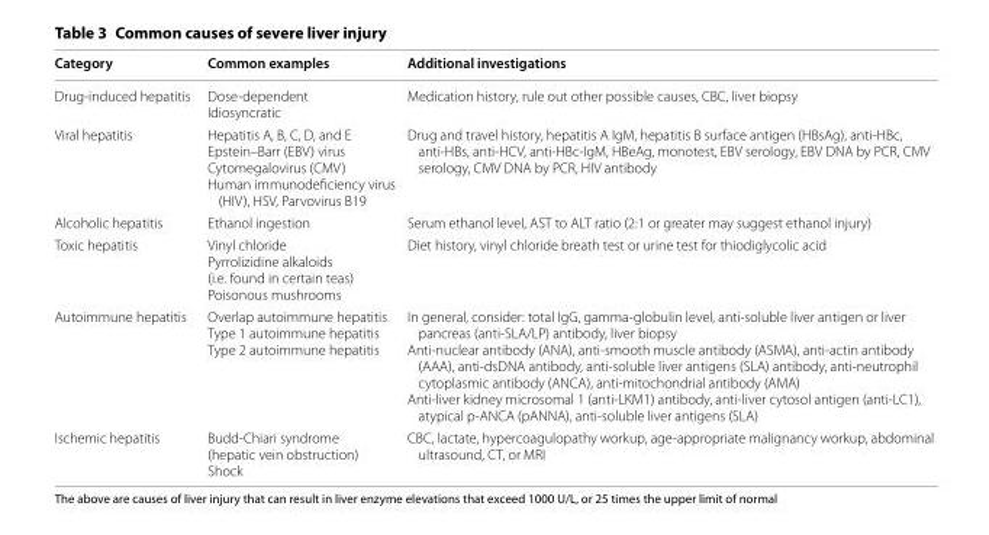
<table><thead><tr><td>Category</td><td>Common examples</td><td>Additional investigations</td></tr></thead><tbody><tr><td>Drug-induced hepatitis</td><td>Dose-dependent Idiosyncratic</td><td>Medication history, rule out other possible causes, CBC, liver biopsy</td></tr><tr><td>Viral hepatitis</td><td>Hepatitis A, B, C, D, and E Epstein–Barr (EBV) virus Cytomegalovirus (CMV) Human immunodeficiency virus (HIV), HSV, Parvovirus B19</td><td>Drug and travel history, hepatitis A IgM, hepatitis B surface antigen (HBsAg), anti-HBc, anti-HBs, anti-HCV, anti-HBc-IgM, HBeAg, monotest, EBV serology, EBV DNA by PCR, CMV serology, CMV DNA by PCR, HIV antibody</td></tr><tr><td>Alcoholic hepatitis</td><td>Ethanol ingestion</td><td>Serum ethanol level, AST to ALT ratio (2:1 or greater may suggest ethanol injury)</td></tr><tr><td>Toxic hepatitis</td><td>Vinyl chloride Pyrrolizidine alkaloids (i.e. found in certain teas) Poisonous mushrooms</td><td>Diet history, vinyl chloride breath test or urine test for thiodiglycolic acid</td></tr><tr><td>Autoimmune hepatitis</td><td>Overlap autoimmune hepatitis Type 1 autoimmune hepatitis Type 2 autoimmune hepatitis</td><td>In general, consider: total IgG, gamma-globulin level, anti-soluble liver antigen or liver pancreas (anti-SLA/LP) antibody, liver biopsy Anti-nuclear antibody (ANA), anti-smooth muscle antibody (ASMA), anti-actin antibody (AAA), anti-dsDNA antibody, anti-soluble liver antigens (SLA) antibody, anti-neutrophil cytoplasmic antibody (ANCA), anti-mitochondrial antibody (AMA) Anti-liver kidney microsomal 1 (anti-LKM1) antibody, anti-liver cytosol antigen (anti-LC1), atypical p-ANCA (pANNA), anti-soluble liver antigens (SLA)</td></tr><tr><td>Ischemic hepatitis</td><td>Budd-Chiari syndrome (hepatic vein obstruction) Shock</td><td>CBC, lactate, hypercoagulopathy workup, age-appropriate malignancy workup, abdominal ultrasound, CT, or MRI</td></tr></tbody></table>